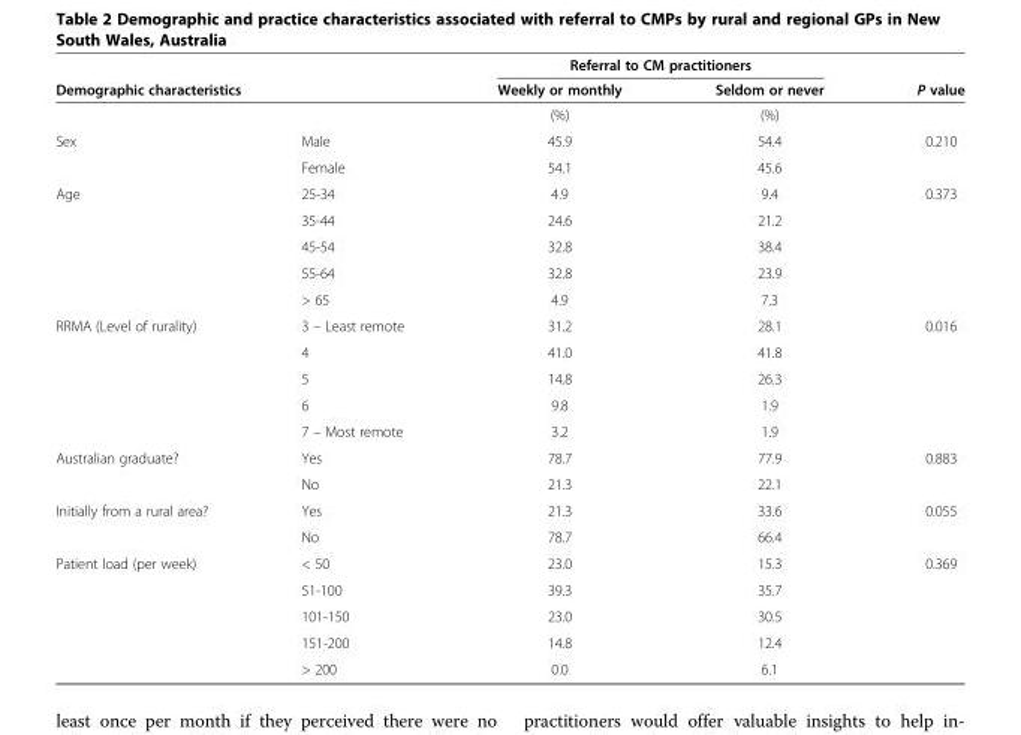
<table><thead><tr><td></td><td></td><td colspan="2">Referral to CM practitioners</td><td rowspan="2">P value</td></tr><tr><td colspan="2">Demographic characteristics</td><td>Weekly or monthly</td><td>Seldom or never</td></tr></thead><tbody><tr><td colspan="2"></td><td>(%)</td><td>(%)</td><td></td></tr><tr><td rowspan="2">Sex</td><td>Male</td><td>45.9</td><td>54.4</td><td>0.210</td></tr><tr><td>Female</td><td>54.1</td><td>45.6</td><td></td></tr><tr><td rowspan="5">Age</td><td>25-34</td><td>4.9</td><td>9.4</td><td>0.373</td></tr><tr><td>35-44</td><td>24.6</td><td>21.2</td><td></td></tr><tr><td>45-54</td><td>32.8</td><td>38.4</td><td></td></tr><tr><td>55-64</td><td>32.8</td><td>23.9</td><td></td></tr><tr><td>&gt; 65</td><td>4.9</td><td>7.3</td><td></td></tr><tr><td rowspan="5">RRMA (Level of rurality)</td><td>3 – Least remote</td><td>31.2</td><td>28.1</td><td>0.016</td></tr><tr><td>4</td><td>41.0</td><td>41.8</td><td></td></tr><tr><td>5</td><td>14.8</td><td>26.3</td><td></td></tr><tr><td>6</td><td>9.8</td><td>1.9</td><td></td></tr><tr><td>7 – Most remote</td><td>3.2</td><td>1.9</td><td></td></tr><tr><td rowspan="2">Australian graduate?</td><td>Yes</td><td>78.7</td><td>77.9</td><td>0.883</td></tr><tr><td>No</td><td>21.3</td><td>22.1</td><td></td></tr><tr><td rowspan="2">Initially from a rural area?</td><td>Yes</td><td>21.3</td><td>33.6</td><td>0.055</td></tr><tr><td>No</td><td>78.7</td><td>66.4</td><td></td></tr><tr><td rowspan="5">Patient load (per week)</td><td>&lt; 50</td><td>23.0</td><td>15.3</td><td>0.369</td></tr><tr><td>51-100</td><td>39.3</td><td>35.7</td><td></td></tr><tr><td>101-150</td><td>23.0</td><td>30.5</td><td></td></tr><tr><td>151-200</td><td>14.8</td><td>12.4</td><td></td></tr><tr><td>&gt; 200</td><td>0.0</td><td>6.1</td><td></td></tr></tbody></table>